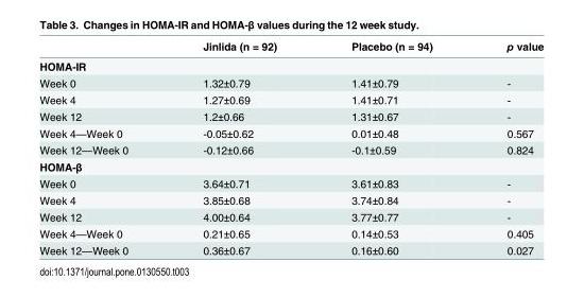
<table><thead><tr><td></td><td>Jinlida (n = 92)</td><td>Placebo (n = 94)</td><td>p value</td></tr></thead><tbody><tr><td colspan="4">HOMA-IR</td></tr><tr><td>Week 0</td><td>1.32±0.79</td><td>1.41±0.79</td><td>-</td></tr><tr><td>Week 4</td><td>1.27±0.69</td><td>1.41±0.71</td><td>-</td></tr><tr><td>Week 12</td><td>1.2±0.66</td><td>1.31±0.67</td><td>-</td></tr><tr><td>Week 4—Week 0</td><td>-0.05±0.62</td><td>0.01±0.48</td><td>0.567</td></tr><tr><td>Week 12—Week 0</td><td>-0.12±0.66</td><td>-0.1±0.59</td><td>0.824</td></tr><tr><td colspan="4">HOMA-β</td></tr><tr><td>Week 0</td><td>3.64±0.71</td><td>3.61±0.83</td><td>-</td></tr><tr><td>Week 4</td><td>3.85±0.68</td><td>3.74±0.84</td><td>-</td></tr><tr><td>Week 12</td><td>4.00±0.64</td><td>3.77±0.77</td><td>-</td></tr><tr><td>Week 4—Week 0</td><td>0.21±0.65</td><td>0.14±0.53</td><td>0.405</td></tr><tr><td>Week 12—Week 0</td><td>0.36±0.67</td><td>0.16±0.60</td><td>0.027</td></tr></tbody></table>